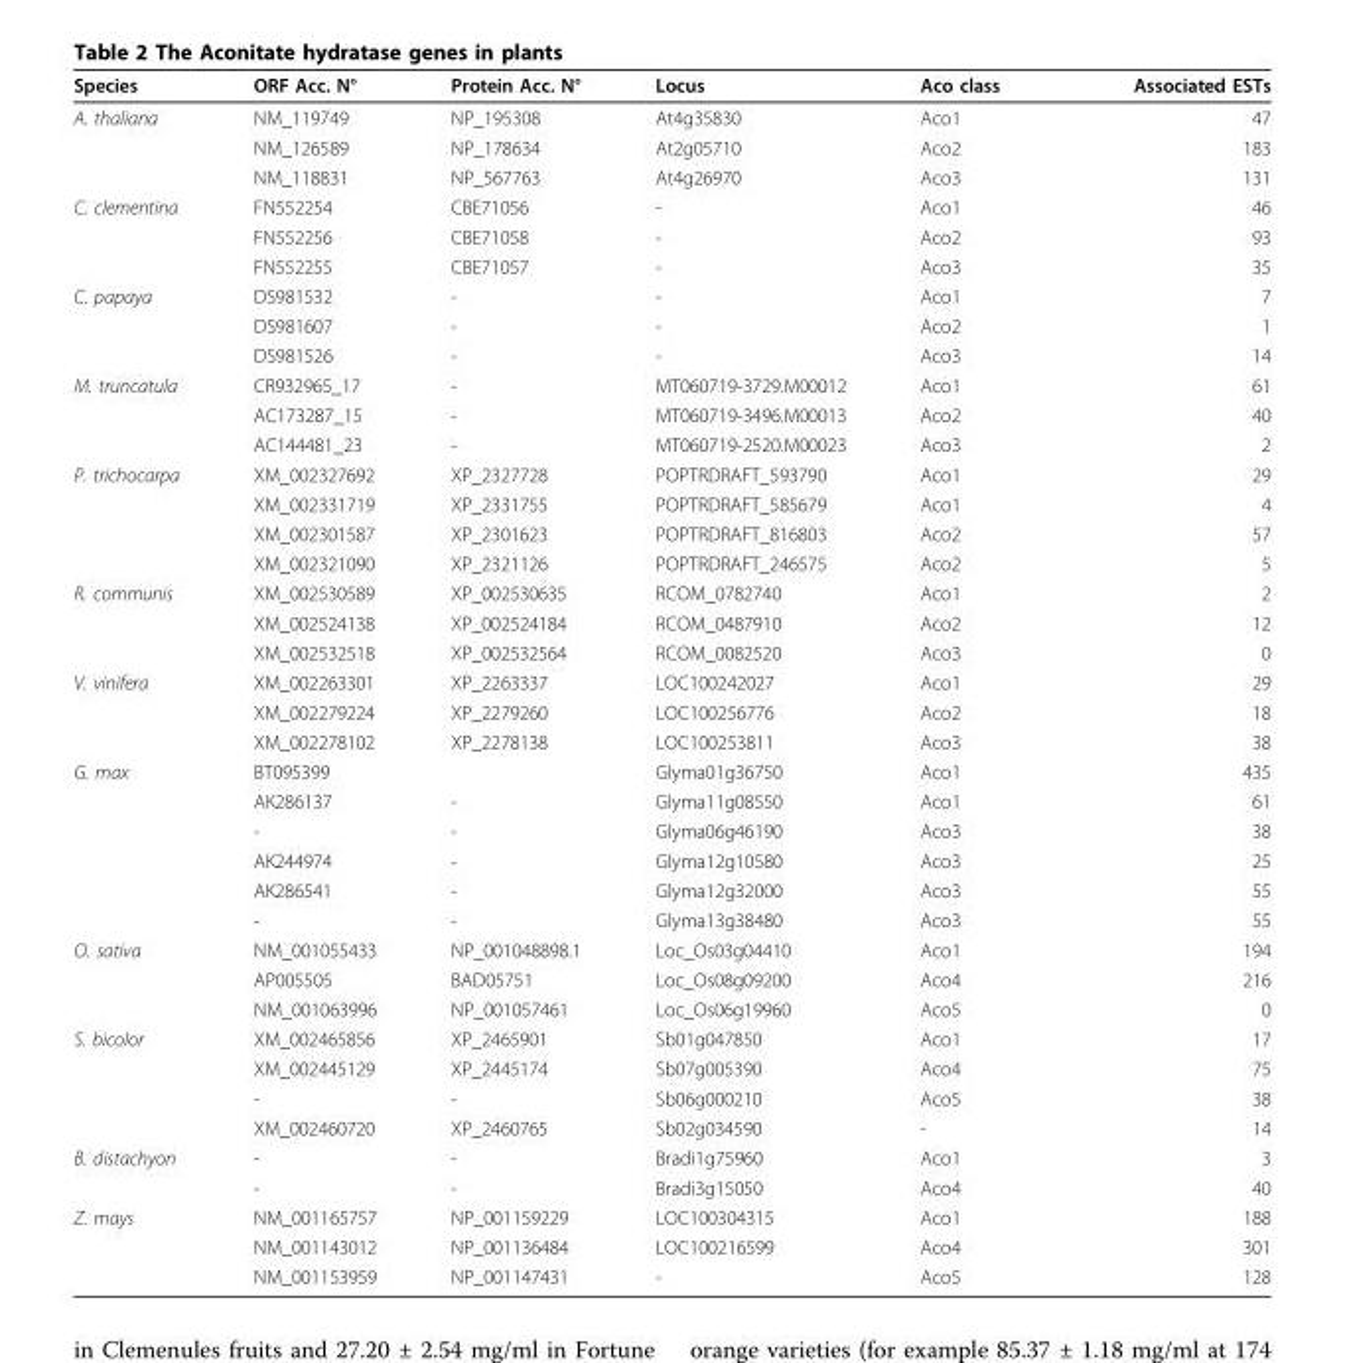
<table><thead><tr><td>Species</td><td>ORF Acc. N°</td><td>Protein Acc. N°</td><td>Locus</td><td>Aco class</td><td>Associated ESTs</td></tr></thead><tbody><tr><td rowspan="3">A. thaliana</td><td>NM_119749</td><td>NP_195308</td><td>At4g35830</td><td>Aco1</td><td>47</td></tr><tr><td>NM_126589</td><td>NP_178634</td><td>At2g05710</td><td>Aco2</td><td>183</td></tr><tr><td>NM_118831</td><td>NP_567763</td><td>At4g26970</td><td>Aco3</td><td>131</td></tr><tr><td rowspan="3">C. clementina</td><td>FN552254</td><td>CBE71056</td><td>-</td><td>Aco1</td><td>46</td></tr><tr><td>FN552256</td><td>CBE71058</td><td>-</td><td>Aco2</td><td>93</td></tr><tr><td>FN552255</td><td>CBE71057</td><td>-</td><td>Aco3</td><td>35</td></tr><tr><td rowspan="3">C. papaya</td><td>DS981532</td><td>-</td><td>-</td><td>Aco1</td><td>7</td></tr><tr><td>DS981607</td><td>-</td><td>-</td><td>Aco2</td><td>1</td></tr><tr><td>DS981526</td><td>-</td><td>-</td><td>Aco3</td><td>14</td></tr><tr><td rowspan="3">M. truncatula</td><td>CR932965_17</td><td>-</td><td>MT060719-3729.M00012</td><td>Aco1</td><td>61</td></tr><tr><td>AC173287_15</td><td>-</td><td>MT060719-3496.M00013</td><td>Aco2</td><td>40</td></tr><tr><td>AC144481_23</td><td>-</td><td>MT060719-2520.M00023</td><td>Aco3</td><td>2</td></tr><tr><td rowspan="4">P. trichocarpa</td><td>XM_002327692</td><td>XP_2327728</td><td>POPTRDRAFT_593790</td><td>Aco1</td><td>29</td></tr><tr><td>XM_002331719</td><td>XP_2331755</td><td>POPTRDRAFT_585679</td><td>Aco1</td><td>4</td></tr><tr><td>XM_002301587</td><td>XP_2301623</td><td>POPTRDRAFT_816803</td><td>Aco2</td><td>57</td></tr><tr><td>XM_002321090</td><td>XP_2321126</td><td>POPTRDRAFT_246575</td><td>Aco2</td><td>5</td></tr><tr><td rowspan="3">R. communis</td><td>XM_002530589</td><td>XP_002530635</td><td>RCOM_0782740</td><td>Aco1</td><td>2</td></tr><tr><td>XM_002524138</td><td>XP_002524184</td><td>RCOM_0487910</td><td>Aco2</td><td>12</td></tr><tr><td>XM_002532518</td><td>XP_002532564</td><td>RCOM_0082520</td><td>Aco3</td><td>0</td></tr><tr><td rowspan="3">V. vinifera</td><td>XM_002263301</td><td>XP_2263337</td><td>LOC100242027</td><td>Aco1</td><td>29</td></tr><tr><td>XM_002279224</td><td>XP_2279260</td><td>LOC100256776</td><td>Aco2</td><td>18</td></tr><tr><td>XM_002278102</td><td>XP_2278138</td><td>LOC100253811</td><td>Aco3</td><td>38</td></tr><tr><td rowspan="6">G. max</td><td>BT095399</td><td></td><td>Glyma01g36750</td><td>Aco1</td><td>435</td></tr><tr><td>AK286137</td><td>-</td><td>Glyma11g08550</td><td>Aco1</td><td>61</td></tr><tr><td>-</td><td>-</td><td>Glyma06g46190</td><td>Aco3</td><td>38</td></tr><tr><td>AK244974</td><td>-</td><td>Glyma12g10580</td><td>Aco3</td><td>25</td></tr><tr><td>AK286541</td><td>-</td><td>Glyma12g32000</td><td>Aco3</td><td>55</td></tr><tr><td>-</td><td>-</td><td>Glyma13g38480</td><td>Aco3</td><td>55</td></tr><tr><td rowspan="3">O. sativa</td><td>NM_001055433</td><td>NP_001048898.1</td><td>Loc_Os03g04410</td><td>Aco1</td><td>194</td></tr><tr><td>AP005505</td><td>BAD05751</td><td>Loc_Os08g09200</td><td>Aco4</td><td>216</td></tr><tr><td>NM_001063996</td><td>NP_001057461</td><td>Loc_Os06g19960</td><td>Aco5</td><td>0</td></tr><tr><td rowspan="4">S. bicolor</td><td>XM_002465856</td><td>XP_2465901</td><td>Sb01g047850</td><td>Aco1</td><td>17</td></tr><tr><td>XM_002445129</td><td>XP_2445174</td><td>Sb07g005390</td><td>Aco4</td><td>75</td></tr><tr><td>-</td><td>-</td><td>Sb06g000210</td><td>Aco5</td><td>38</td></tr><tr><td>XM_002460720</td><td>XP_2460765</td><td>Sb02g034590</td><td>-</td><td>14</td></tr><tr><td rowspan="2">B. distachyon</td><td>-</td><td>-</td><td>Bradi1g75960</td><td>Aco1</td><td>3</td></tr><tr><td>-</td><td>-</td><td>Bradi3g15050</td><td>Aco4</td><td>40</td></tr><tr><td rowspan="3">Z. mays</td><td>NM_001165757</td><td>NP_001159229</td><td>LOC100304315</td><td>Aco1</td><td>188</td></tr><tr><td>NM_001143012</td><td>NP_001136484</td><td>LOC100216599</td><td>Aco4</td><td>301</td></tr><tr><td>NM_001153959</td><td>NP_001147431</td><td>-</td><td>Aco5</td><td>128</td></tr></tbody></table>